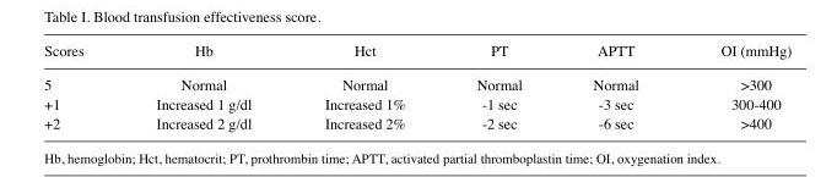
<table><thead><tr><td>Scores</td><td>Hb</td><td>Hct</td><td>PT</td><td>APTT</td><td>OI (mmHg)</td></tr></thead><tbody><tr><td>5</td><td>Normal</td><td>Normal</td><td>Normal</td><td>Normal</td><td>&gt;300</td></tr><tr><td>+1</td><td>Increased 1 g/dl</td><td>Increased 1%</td><td>-1 sec</td><td>-3 sec</td><td>300-400</td></tr><tr><td>+2</td><td>Increased 2 g/dl</td><td>Increased 2%</td><td>-2 sec</td><td>-6 sec</td><td>&gt;400</td></tr></tbody></table>